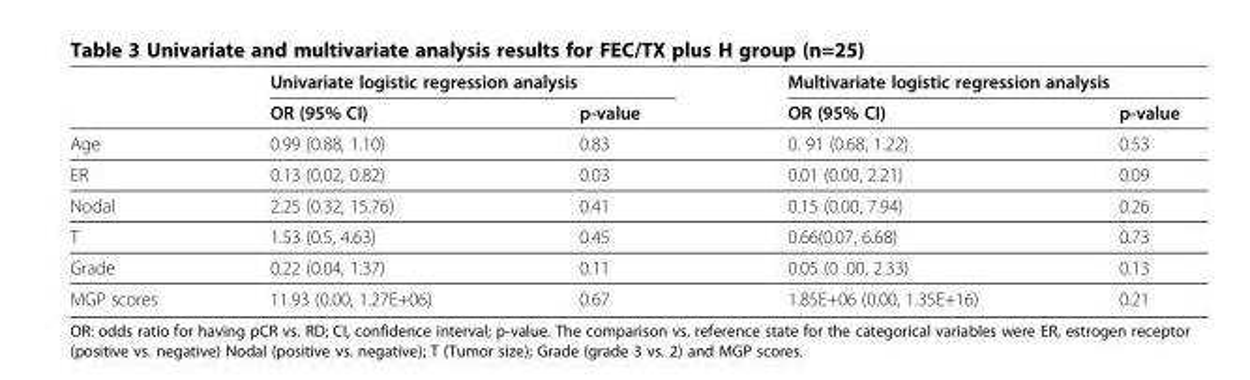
<table><thead><tr><td rowspan="2"></td><td colspan="2">Univariate logistic regression analysis</td><td colspan="2">Multivariate logistic regression analysis</td></tr><tr><td>OR (95% CI)</td><td>p-value</td><td>OR (95% CI)</td><td>p-value</td></tr></thead><tbody><tr><td>Age</td><td>0.99 (0.88, 1.10)</td><td>0.83</td><td>0. 91 (0.68, 1.22)</td><td>0.53</td></tr><tr><td>ER</td><td>0.13 (0.02, 0.82)</td><td>0.03</td><td>0.01 (0.00, 2.21)</td><td>0.09</td></tr><tr><td>Nodal</td><td>2.25 (0.32, 15.76)</td><td>0.41</td><td>0.15 (0.00, 7.94)</td><td>0.26</td></tr><tr><td>T</td><td>1.53 (0.5, 4.63)</td><td>0.45</td><td>0.66(0.07, 6.68)</td><td>0.73</td></tr><tr><td>Grade</td><td>0.22 (0.04, 1.37)</td><td>0.11</td><td>0.05 (0 .00, 2.33)</td><td>0.13</td></tr><tr><td>MGP scores</td><td>11.93 (0.00, 1.27E+06)</td><td>0.67</td><td>1.85E+06 (0.00, 1.35E+16)</td><td>0.21</td></tr></tbody></table>